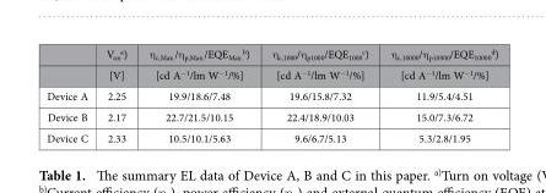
<table><thead><tr><td rowspan="2"></td><td rowspan="2">V<sub>on</sub> <sup>a</sup>) [V]</td><td rowspan="2">η <sub>c,Max.</sub>/η <sub>p,Max.</sub>/EQE<sub>Max.</sub> <sup>b</sup>) [cd A<sup>−1</sup>/lm W<sup>−1</sup>/%]</td><td rowspan="2">η <sub>c,1000</sub>/η <sub>p1000</sub>/EQE<sub>1000</sub> <sup>c</sup>) [cd A<sup>−1</sup>/lm W<sup>−1</sup>/%]</td><td rowspan="2">η <sub>c,10000</sub>/η <sub>p10000</sub>/EQE<sub>10000</sub> <sup>d</sup>) [cd A<sup>−1</sup>/lm W<sup>−1</sup>/%]</td></tr><tr></tr></thead><tbody><tr><td>Device A</td><td>2.25</td><td>19.9/18.6/7.48</td><td>19.6/15.8/7.32</td><td>11.9/5.4/4.51</td></tr><tr><td>Device B</td><td>2.17</td><td>22.7/21.5/10.15</td><td>22.4/18.9/10.03</td><td>15.0/7.3/6.72</td></tr><tr><td>Device C</td><td>2.33</td><td>10.5/10.1/5.63</td><td>9.6/6.7/5.13</td><td>5.3/2.8/1.95</td></tr></tbody></table>